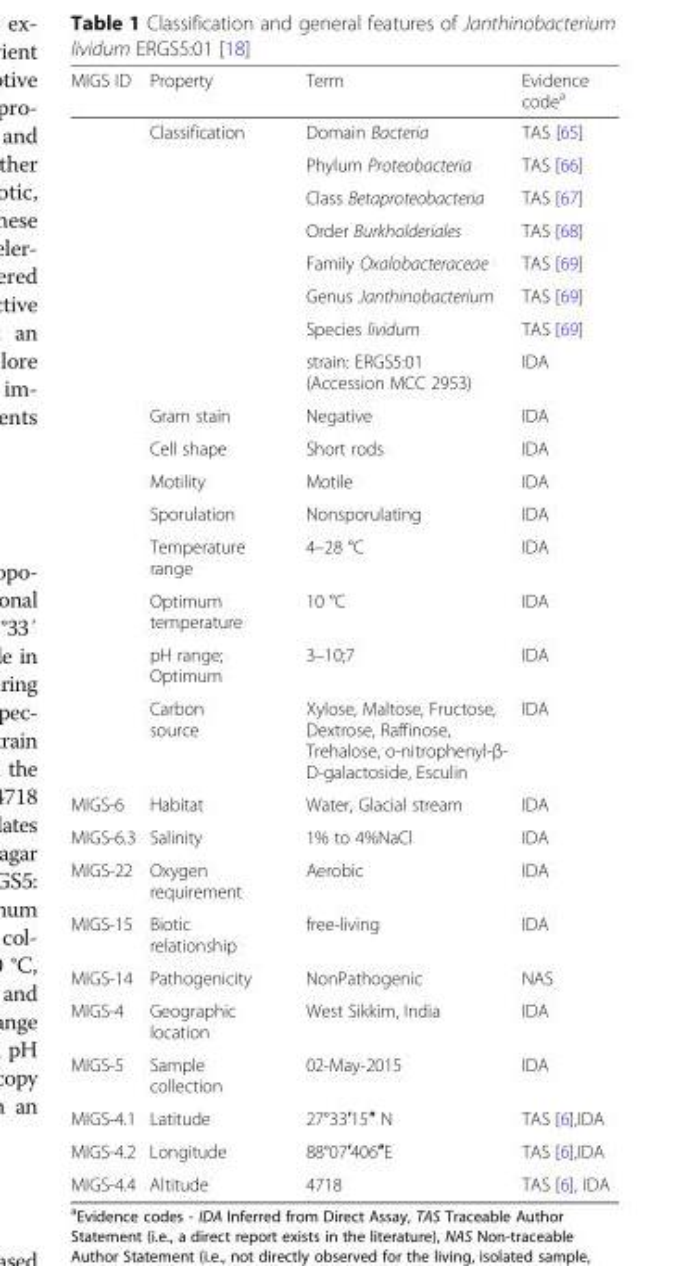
<table><thead><tr><td>MIGS ID</td><td>Property</td><td>Term</td><td>Evidence code<sup>a</sup></td></tr></thead><tbody><tr><td></td><td>Classification</td><td>Domain Bacteria</td><td>TAS [65]</td></tr><tr><td></td><td></td><td>Phylum Proteobacteria</td><td>TAS [66]</td></tr><tr><td></td><td></td><td>Class Betaproteobacteria</td><td>TAS [67]</td></tr><tr><td></td><td></td><td>Order Burkholderiales</td><td>TAS [68]</td></tr><tr><td></td><td></td><td>Family Oxalobacteraceae</td><td>TAS [69]</td></tr><tr><td></td><td></td><td>Genus Janthinobacterium</td><td>TAS [69]</td></tr><tr><td></td><td></td><td>Species lividum</td><td>TAS [69]</td></tr><tr><td></td><td></td><td>strain: ERGS5:01 (Accession MCC 2953)</td><td>IDA</td></tr><tr><td></td><td>Gram stain</td><td>Negative</td><td>IDA</td></tr><tr><td></td><td>Cell shape</td><td>Short rods</td><td>IDA</td></tr><tr><td></td><td>Motility</td><td>Motile</td><td>IDA</td></tr><tr><td></td><td>Sporulation</td><td>Nonsporulating</td><td>IDA</td></tr><tr><td></td><td>Temperature range</td><td>4–28 °C</td><td>IDA</td></tr><tr><td></td><td>Optimum temperature</td><td>10 °C</td><td>IDA</td></tr><tr><td></td><td>pH range; Optimum</td><td>3–10;7</td><td>IDA</td></tr><tr><td></td><td>Carbon source</td><td>Xylose, Maltose, Fructose, Dextrose, Raffinose, Trehalose, o-nitrophenyl-β- D-galactoside, Esculin</td><td>IDA</td></tr><tr><td>MIGS-6</td><td>Habitat</td><td>Water, Glacial stream</td><td>IDA</td></tr><tr><td>MIGS-6.3</td><td>Salinity</td><td>1% to 4%NaCl</td><td>IDA</td></tr><tr><td>MIGS-22</td><td>Oxygen requirement</td><td>Aerobic</td><td>IDA</td></tr><tr><td>MIGS-15</td><td>Biotic relationship</td><td>free-living</td><td>IDA</td></tr><tr><td>MIGS-14</td><td>Pathogenicity</td><td>NonPathogenic</td><td>NAS</td></tr><tr><td>MIGS-4</td><td>Geographic location</td><td>West Sikkim, India</td><td>IDA</td></tr><tr><td>MIGS-5</td><td>Sample collection</td><td>02-May-2015</td><td>IDA</td></tr><tr><td>MIGS-4.1</td><td>Latitude</td><td>27°33′15″ N</td><td>TAS [6],IDA</td></tr><tr><td>MIGS-4.2</td><td>Longitude</td><td>88°07′406″E</td><td>TAS [6],IDA</td></tr><tr><td>MIGS-4.4</td><td>Altitude</td><td>4718</td><td>TAS [6], IDA</td></tr></tbody></table>